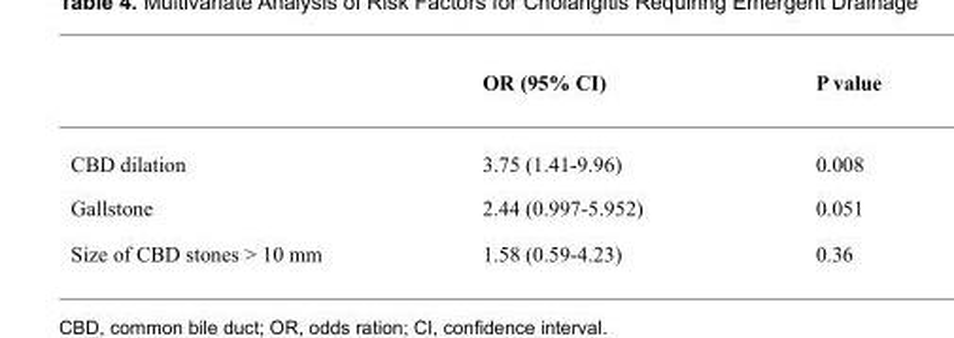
<table><thead><tr><td></td><td>OR (95% CI)</td><td>P value</td></tr></thead><tbody><tr><td>CBD dilation</td><td>3.75 (1.41-9.96)</td><td>0.008</td></tr><tr><td>Gallstone</td><td>2.44 (0.997-5.952)</td><td>0.051</td></tr><tr><td>Size of CBD stones &gt; 10 mm</td><td>1.58 (0.59-4.23)</td><td>0.36</td></tr></tbody></table>